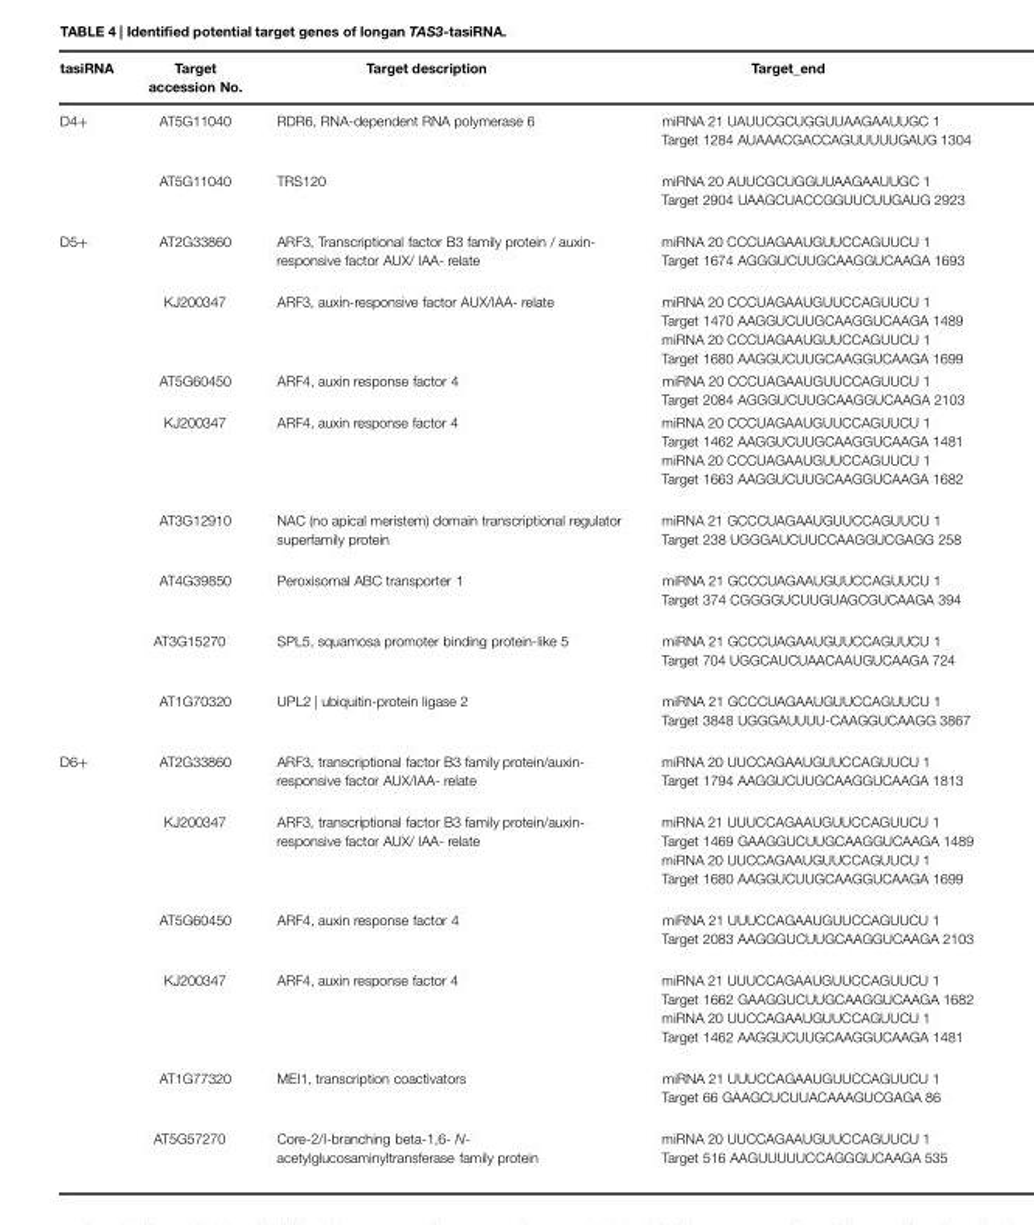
<table><thead><tr><td>tasiRNA</td><td>Target accession No.</td><td>Target description</td><td>Target_end</td></tr></thead><tbody><tr><td rowspan="2">D4+</td><td>AT5G11040</td><td>RDR6, RNA-dependent RNA polymerase 6</td><td>miRNA 21 UAUUCGCUGGUUAAGAAUUGC 1 Target 1284 AUAAACGACCAGUUUUUGAUG 1304</td></tr><tr><td>AT5G11040</td><td>TRS120</td><td>miRNA 20 AUUCGCUGGUUAAGAAUUGC 1 Target 2904 UAAGCUACCGGUUCUUGAUG 2923</td></tr><tr><td rowspan="8">D5+</td><td>AT2G33860</td><td>ARF3, Transcriptional factor B3 family protein / auxin- responsive factor AUX/ IAA- relate</td><td>miRNA 20 CCCUAGAAUGUUCCAGUUCU 1 Target 1674 AGGGUCUUGCAAGGUCAAGA 1693</td></tr><tr><td>KJ200347</td><td>ARF3, auxin-responsive factor AUX/IAA- relate</td><td>miRNA 20 CCCUAGAAUGUUCCAGUUCU 1 Target 1470 AAGGUCUUGCAAGGUCAAGA 1489 miRNA 20 CCCUAGAAUGUUCCAGUUCU 1 Target 1680 AAGGUCUUGCAAGGUCAAGA 1699</td></tr><tr><td>AT5G60450</td><td>ARF4, auxin response factor 4</td><td>miRNA 20 CCCUAGAAUGUUCCAGUUCU 1 Target 2084 AGGGUCUUGCAAGGUCAAGA 2103</td></tr><tr><td>KJ200347</td><td>ARF4, auxin response factor 4</td><td>miRNA 20 CCCUAGAAUGUUCCAGUUCU 1 Target 1462 AAGGUCUUGCAAGGUCAAGA 1481 miRNA 20 CCCUAGAAUGUUCCAGUUCU 1 Target 1663 AAGGUCUUGCAAGGUCAAGA 1682</td></tr><tr><td>AT3G12910</td><td>NAC (no apical meristem) domain transcriptional regulator superfamily protein</td><td>miRNA 21 GCCCUAGAAUGUUCCAGUUCU 1 Target 238 UGGGAUCUUCCAAGGUCGAGG 258</td></tr><tr><td>AT4G39850</td><td>Peroxisomal ABC transporter 1</td><td>miRNA 21 GCCCUAGAAUGUUCCAGUUCU 1 Target 374 CGGGGUCUUGUAGCGUCAAGA 394</td></tr><tr><td>AT3G15270</td><td>SPL5, squamosa promoter binding protein-like 5</td><td>miRNA 21 GCCCUAGAAUGUUCCAGUUCU 1 Target 704 UGGCAUCUAACAAUGUCAAGA 724</td></tr><tr><td>AT1G70320</td><td>UPL2 | ubiquitin-protein ligase 2</td><td>miRNA 21 GCCCUAGAAUGUUCCAGUUCU 1 Target 3848 UGGGAUUUU-CAAGGUCAAGG 3867</td></tr><tr><td rowspan="6">D6+</td><td>AT2G33860</td><td>ARF3, transcriptional factor B3 family protein/auxin- responsive factor AUX/IAA- relate</td><td>miRNA 20 UUCCAGAAUGUUCCAGUUCU 1 Target 1794 AAGGUCUUGCAAGGUCAAGA 1813</td></tr><tr><td>KJ200347</td><td>ARF3, transcriptional factor B3 family protein/auxin- responsive factor AUX/ IAA- relate</td><td>miRNA 21 UUUCCAGAAUGUUCCAGUUCU 1 Target 1469 GAAGGUCUUGCAAGGUCAAGA 1489 miRNA 20 UUCCAGAAUGUUCCAGUUCU 1 Target 1680 AAGGUCUUGCAAGGUCAAGA 1699</td></tr><tr><td>AT5G60450</td><td>ARF4, auxin response factor 4</td><td>miRNA 21 UUUCCAGAAUGUUCCAGUUCU 1 Target 2083 AAGGGUCUUGCAAGGUCAAGA 2103</td></tr><tr><td>KJ200347</td><td>ARF4, auxin response factor 4</td><td>miRNA 21 UUUCCAGAAUGUUCCAGUUCU 1 Target 1662 GAAGGUCUUGCAAGGUCAAGA 1682 miRNA 20 UUCCAGAAUGUUCCAGUUCU 1 Target 1462 AAGGUCUUGCAAGGUCAAGA 1481</td></tr><tr><td>AT1G77320</td><td>MEI1, transcription coactivators</td><td>miRNA 21 UUUCCAGAAUGUUCCAGUUCU 1 Target 66 GAAGCUCUUACAAAGUCGAGA 86</td></tr><tr><td>AT5G57270</td><td>Core-2/I-branching beta-1,6- N- acetylglucosaminyltransferase family protein</td><td>miRNA 20 UUCCAGAAUGUUCCAGUUCU 1 Target 516 AAGUUUUUCCAGGGUCAAGA 535</td></tr></tbody></table>